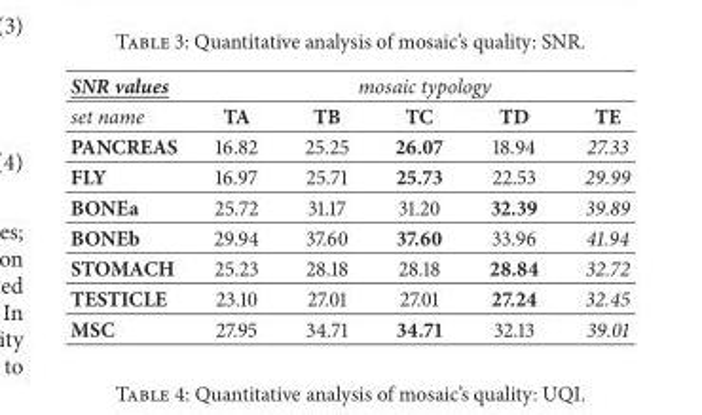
<table><tbody><tr><td>SNR values</td><td colspan="5">mosaic typology</td></tr><tr><td>set name</td><td>TA</td><td>TB</td><td>TC</td><td>TD</td><td>TE</td></tr><tr><td>PANCREAS</td><td>16.82</td><td>25.25</td><td>26.07</td><td>18.94</td><td>27.33</td></tr><tr><td>FLY</td><td>16.97</td><td>25.71</td><td>25.73</td><td>22.53</td><td>29.99</td></tr><tr><td>BONEa</td><td>25.72</td><td>31.17</td><td>31.20</td><td>32.39</td><td>39.89</td></tr><tr><td>BONEb</td><td>29.94</td><td>37.60</td><td>37.60</td><td>33.96</td><td>41.94</td></tr><tr><td>STOMACH</td><td>25.23</td><td>28.18</td><td>28.18</td><td>28.84</td><td>32.72</td></tr><tr><td>TESTICLE</td><td>23.10</td><td>27.01</td><td>27.01</td><td>27.24</td><td>32.45</td></tr><tr><td>MSC</td><td>27.95</td><td>34.71</td><td>34.71</td><td>32.13</td><td>39.01</td></tr></tbody></table>